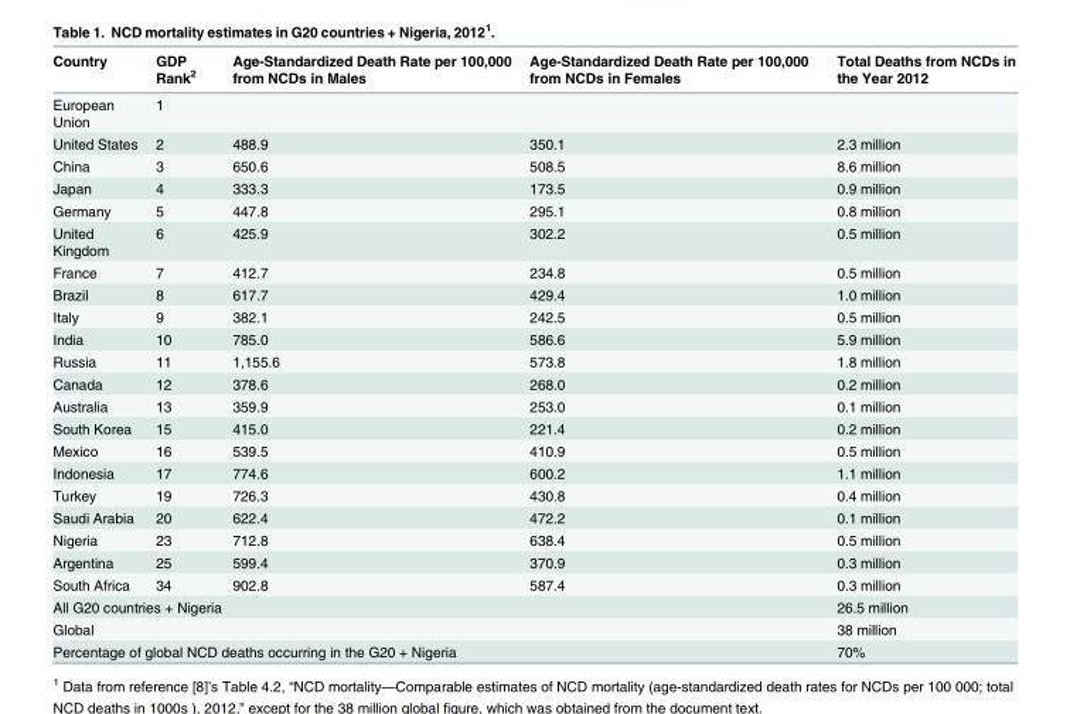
<table><thead><tr><td>Country</td><td>GDP Rank<sup>2</sup></td><td>Age-Standardized Death Rate per 100,000 from NCDs in Males</td><td>Age-Standardized Death Rate per 100,000 from NCDs in Females</td><td>Total Deaths from NCDs in the Year 2012</td></tr></thead><tbody><tr><td>European Union</td><td>1</td><td></td><td></td><td></td></tr><tr><td>United States</td><td>2</td><td>488.9</td><td>350.1</td><td>2.3 million</td></tr><tr><td>China</td><td>3</td><td>650.6</td><td>508.5</td><td>8.6 million</td></tr><tr><td>Japan</td><td>4</td><td>333.3</td><td>173.5</td><td>0.9 million</td></tr><tr><td>Germany</td><td>5</td><td>447.8</td><td>295.1</td><td>0.8 million</td></tr><tr><td>United Kingdom</td><td>6</td><td>425.9</td><td>302.2</td><td>0.5 million</td></tr><tr><td>France</td><td>7</td><td>412.7</td><td>234.8</td><td>0.5 million</td></tr><tr><td>Brazil</td><td>8</td><td>617.7</td><td>429.4</td><td>1.0 million</td></tr><tr><td>Italy</td><td>9</td><td>382.1</td><td>242.5</td><td>0.5 million</td></tr><tr><td>India</td><td>10</td><td>785.0</td><td>586.6</td><td>5.9 million</td></tr><tr><td>Russia</td><td>11</td><td>1,155.6</td><td>573.8</td><td>1.8 million</td></tr><tr><td>Canada</td><td>12</td><td>378.6</td><td>268.0</td><td>0.2 million</td></tr><tr><td>Australia</td><td>13</td><td>359.9</td><td>253.0</td><td>0.1 million</td></tr><tr><td>South Korea</td><td>15</td><td>415.0</td><td>221.4</td><td>0.2 million</td></tr><tr><td>Mexico</td><td>16</td><td>539.5</td><td>410.9</td><td>0.5 million</td></tr><tr><td>Indonesia</td><td>17</td><td>774.6</td><td>600.2</td><td>1.1 million</td></tr><tr><td>Turkey</td><td>19</td><td>726.3</td><td>430.8</td><td>0.4 million</td></tr><tr><td>Saudi Arabia</td><td>20</td><td>622.4</td><td>472.2</td><td>0.1 million</td></tr><tr><td>Nigeria</td><td>23</td><td>712.8</td><td>638.4</td><td>0.5 million</td></tr><tr><td>Argentina</td><td>25</td><td>599.4</td><td>370.9</td><td>0.3 million</td></tr><tr><td>South Africa</td><td>34</td><td>902.8</td><td>587.4</td><td>0.3 million</td></tr><tr><td colspan="4">All G20 countries + Nigeria</td><td>26.5 million</td></tr><tr><td colspan="4">Global</td><td>38 million</td></tr><tr><td colspan="4">Percentage of global NCD deaths occurring in the G20 + Nigeria</td><td>70%</td></tr></tbody></table>